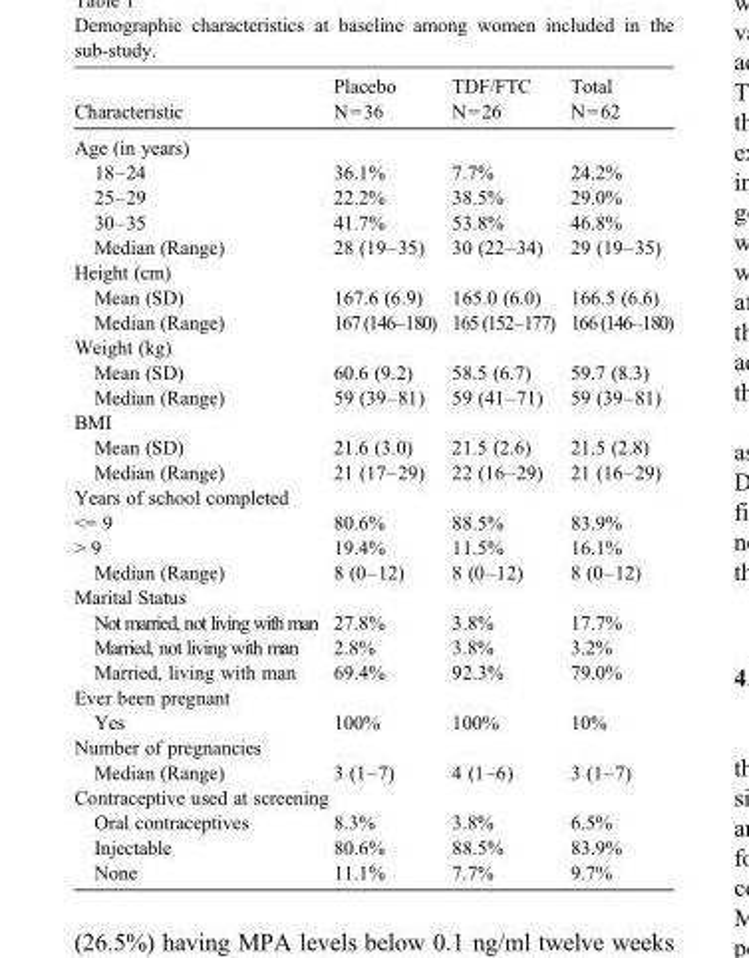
<table><thead><tr><td>Characteristic</td><td>Placebo N=36</td><td>TDF/FTC N=26</td><td>Total N=62</td></tr></thead><tbody><tr><td colspan="4">Age (in years)</td></tr><tr><td>18–24</td><td>36.1%</td><td>7.7%</td><td>24.2%</td></tr><tr><td>25–29</td><td>22.2%</td><td>38.5%</td><td>29.0%</td></tr><tr><td>30–35</td><td>41.7%</td><td>53.8%</td><td>46.8%</td></tr><tr><td>Median (Range)</td><td>28 (19–35)</td><td>30 (22–34)</td><td>29 (19–35)</td></tr><tr><td colspan="4">Height (cm)</td></tr><tr><td>Mean (SD)</td><td>167.6 (6.9)</td><td>165.0 (6.0)</td><td>166.5 (6.6)</td></tr><tr><td>Median (Range)</td><td>167(146–180)</td><td>165(152–177)</td><td>166(146–180)</td></tr><tr><td colspan="4">Weight (kg)</td></tr><tr><td>Mean (SD)</td><td>60.6 (9.2)</td><td>58.5 (6.7)</td><td>59.7 (8.3)</td></tr><tr><td>Median (Range)</td><td>59 (39–81)</td><td>59 (41–71)</td><td>59 (39–81)</td></tr><tr><td colspan="4">BMI</td></tr><tr><td>Mean (SD)</td><td>21.6 (3.0)</td><td>21.5 (2.6)</td><td>21.5 (2.8)</td></tr><tr><td>Median (Range)</td><td>21 (17–29)</td><td>22 (16–29)</td><td>21 (16–29)</td></tr><tr><td colspan="4">Years of school completed</td></tr><tr><td>&lt;= 9</td><td>80.6%</td><td>88.5%</td><td>83.9%</td></tr><tr><td>&gt; 9</td><td>19.4%</td><td>11.5%</td><td>16.1%</td></tr><tr><td>Median (Range)</td><td>8 (0–12)</td><td>8 (0–12)</td><td>8 (0–12)</td></tr><tr><td colspan="4">Marital Status</td></tr><tr><td>Not married, not living with man</td><td>27.8%</td><td>3.8%</td><td>17.7%</td></tr><tr><td>Married, not living with man</td><td>2.8%</td><td>3.8%</td><td>3.2%</td></tr><tr><td>Married, living with man</td><td>69.4%</td><td>92.3%</td><td>79.0%</td></tr><tr><td colspan="4">Ever been pregnant</td></tr><tr><td>Yes</td><td>100%</td><td>100%</td><td>10%</td></tr><tr><td colspan="4">Number of pregnancies</td></tr><tr><td>Median (Range)</td><td>3 (1–7)</td><td>4 (1–6)</td><td>3 (1–7)</td></tr><tr><td colspan="4">Contraceptive used at screening</td></tr><tr><td>Oral contraceptives</td><td>8.3%</td><td>3.8%</td><td>6.5%</td></tr><tr><td>Injectable</td><td>80.6%</td><td>88.5%</td><td>83.9%</td></tr><tr><td>None</td><td>11.1%</td><td>7.7%</td><td>9.7%</td></tr></tbody></table>